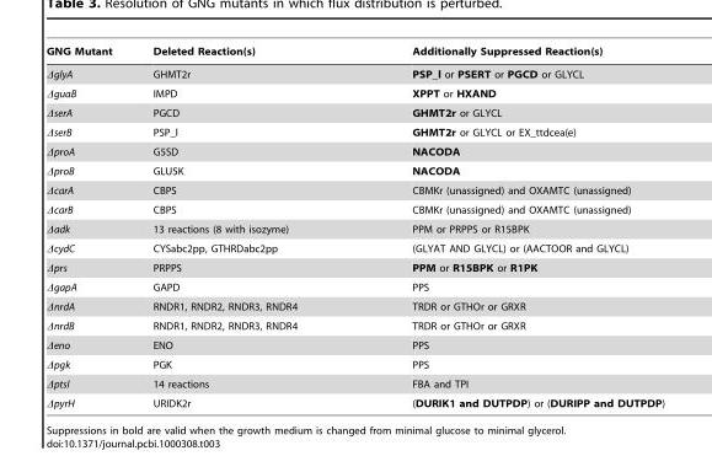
<table><thead><tr><td>GNG Mutant</td><td>Deleted Reaction(s)</td><td>Additionally Suppressed Reaction(s)</td></tr></thead><tbody><tr><td>ΔglyA</td><td>GHMT2r</td><td>PSP_l or PSERT or PGCD or GLYCL</td></tr><tr><td>ΔguaB</td><td>IMPD</td><td>XPPT or HXAND</td></tr><tr><td>ΔserA</td><td>PGCD</td><td>GHMT2r or GLYCL</td></tr><tr><td>ΔserB</td><td>PSP_l</td><td>GHMT2r or GLYCL or EX_ttdcea(e)</td></tr><tr><td>ΔproA</td><td>G5SD</td><td>NACODA</td></tr><tr><td>ΔproB</td><td>GLU5K</td><td>NACODA</td></tr><tr><td>ΔcarA</td><td>CBPS</td><td>CBMKr (unassigned) and OXAMTC (unassigned)</td></tr><tr><td>ΔcarB</td><td>CBPS</td><td>CBMKr (unassigned) and OXAMTC (unassigned)</td></tr><tr><td>Δadk</td><td>13 reactions (8 with isozyme)</td><td>PPM or PRPPS or R15BPK</td></tr><tr><td>ΔcydC</td><td>CYSabc2pp, GTHRDabc2pp</td><td>(GLYAT AND GLYCL) or (AACTOOR and GLYCL)</td></tr><tr><td>Δprs</td><td>PRPPS</td><td>PPM or R15BPK or R1PK</td></tr><tr><td>ΔgapA</td><td>GAPD</td><td>PPS</td></tr><tr><td>ΔnrdA</td><td>RNDR1, RNDR2, RNDR3, RNDR4</td><td>TRDR or GTHOr or GRXR</td></tr><tr><td>ΔnrdB</td><td>RNDR1, RNDR2, RNDR3, RNDR4</td><td>TRDR or GTHOr or GRXR</td></tr><tr><td>Δeno</td><td>ENO</td><td>PPS</td></tr><tr><td>Δpgk</td><td>PGK</td><td>PPS</td></tr><tr><td>ΔptsI</td><td>14 reactions</td><td>FBA and TPI</td></tr><tr><td>ΔpyrH</td><td>URIDK2r</td><td>(DURIK1 and DUTPDP) or (DURIPP and DUTPDP)</td></tr></tbody></table>